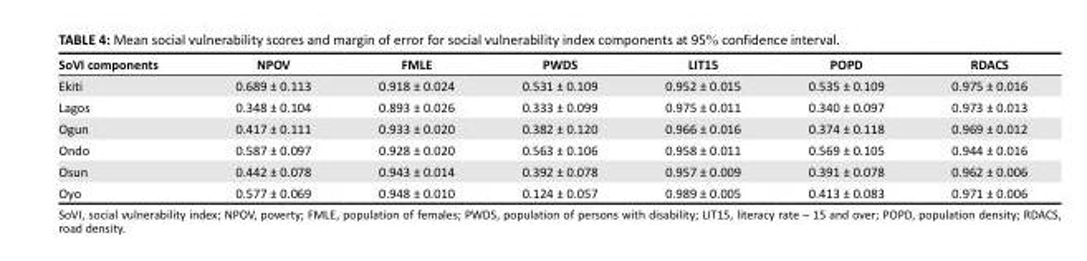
<table><thead><tr><td>SoVI components</td><td>NPOV</td><td>FMLE</td><td>PWDS</td><td>LIT15</td><td>POPD</td><td>RDACS</td></tr></thead><tbody><tr><td>Ekiti</td><td>0.689 ± 0.113</td><td>0.918 ± 0.024</td><td>0.531 ± 0.109</td><td>0.952 ± 0.015</td><td>0.535 ± 0.109</td><td>0.975 ± 0.016</td></tr><tr><td>Lagos</td><td>0.348 ± 0.104</td><td>0.893 ± 0.026</td><td>0.333 ± 0.099</td><td>0.975 ± 0.011</td><td>0.340 ± 0.097</td><td>0.973 ± 0.013</td></tr><tr><td>Ogun</td><td>0.417 ± 0.111</td><td>0.933 ± 0.020</td><td>0.382 ± 0.120</td><td>0.966 ± 0.016</td><td>0.374 ± 0.118</td><td>0.969 ± 0.012</td></tr><tr><td>Ondo</td><td>0.587 ± 0.097</td><td>0.928 ± 0.020</td><td>0.563 ± 0.106</td><td>0.958 ± 0.011</td><td>0.569 ± 0.105</td><td>0.944 ± 0.016</td></tr><tr><td>Osun</td><td>0.442 ± 0.078</td><td>0.943 ± 0.014</td><td>0.392 ± 0.078</td><td>0.957 ± 0.009</td><td>0.391 ± 0.078</td><td>0.962 ± 0.006</td></tr><tr><td>Oyo</td><td>0.577 ± 0.069</td><td>0.948 ± 0.010</td><td>0.124 ± 0.057</td><td>0.989 ± 0.005</td><td>0.413 ± 0.083</td><td>0.971 ± 0.006</td></tr></tbody></table>